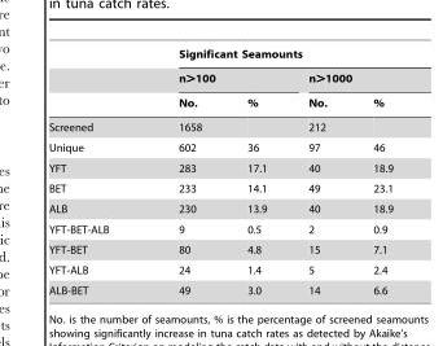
<table><thead><tr><td rowspan="3"></td><td colspan="4">Significant Seamounts</td></tr><tr><td colspan="2">n&gt;100</td><td colspan="2">n&gt;1000</td></tr><tr><td>No.</td><td>%</td><td>No.</td><td>%</td></tr></thead><tbody><tr><td>Screened</td><td>1658</td><td></td><td>212</td><td></td></tr><tr><td>Unique</td><td>602</td><td>36</td><td>97</td><td>46</td></tr><tr><td>YFT</td><td>283</td><td>17.1</td><td>40</td><td>18.9</td></tr><tr><td>BET</td><td>233</td><td>14.1</td><td>49</td><td>23.1</td></tr><tr><td>ALB</td><td>230</td><td>13.9</td><td>40</td><td>18.9</td></tr><tr><td>YFT-BET-ALB</td><td>9</td><td>0.5</td><td>2</td><td>0.9</td></tr><tr><td>YFT-BET</td><td>80</td><td>4.8</td><td>15</td><td>7.1</td></tr><tr><td>YFT-ALB</td><td>24</td><td>1.4</td><td>5</td><td>2.4</td></tr><tr><td>ALB-BET</td><td>49</td><td>3.0</td><td>14</td><td>6.6</td></tr></tbody></table>